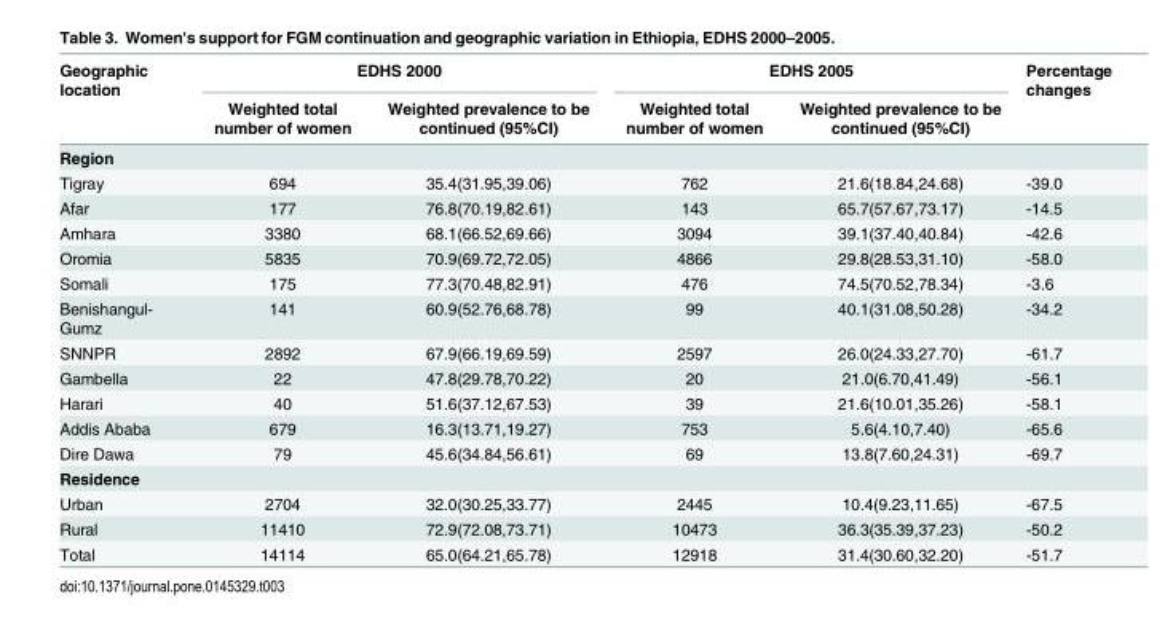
<table><thead><tr><td rowspan="2">Geographic location</td><td colspan="2">EDHS 2000</td><td colspan="2">EDHS 2005</td><td rowspan="2">Percentage changes</td></tr><tr><td>Weighted total number of women</td><td>Weighted prevalence to be continued (95%CI)</td><td>Weighted total number of women</td><td>Weighted prevalence to be continued (95%CI)</td></tr></thead><tbody><tr><td colspan="6">Region</td></tr><tr><td>Tigray</td><td>694</td><td>35.4(31.95,39.06)</td><td>762</td><td>21.6(18.84,24.68)</td><td>-39.0</td></tr><tr><td>Afar</td><td>177</td><td>76.8(70.19,82.61)</td><td>143</td><td>65.7(57.67,73.17)</td><td>-14.5</td></tr><tr><td>Amhara</td><td>3380</td><td>68.1(66.52,69.66)</td><td>3094</td><td>39.1(37.40,40.84)</td><td>-42.6</td></tr><tr><td>Oromia</td><td>5835</td><td>70.9(69.72,72.05)</td><td>4866</td><td>29.8(28.53,31.10)</td><td>-58.0</td></tr><tr><td>Somali</td><td>175</td><td>77.3(70.48,82.91)</td><td>476</td><td>74.5(70.52,78.34)</td><td>-3.6</td></tr><tr><td>Benishangul- Gumz</td><td>141</td><td>60.9(52.76,68.78)</td><td>99</td><td>40.1(31.08,50.28)</td><td>-34.2</td></tr><tr><td>SNNPR</td><td>2892</td><td>67.9(66.19,69.59)</td><td>2597</td><td>26.0(24.33,27.70)</td><td>-61.7</td></tr><tr><td>Gambella</td><td>22</td><td>47.8(29.78,70.22)</td><td>20</td><td>21.0(6.70,41.49)</td><td>-56.1</td></tr><tr><td>Harari</td><td>40</td><td>51.6(37.12,67.53)</td><td>39</td><td>21.6(10.01,35.26)</td><td>-58.1</td></tr><tr><td>Addis Ababa</td><td>679</td><td>16.3(13.71,19.27)</td><td>753</td><td>5.6(4.10,7.40)</td><td>-65.6</td></tr><tr><td>Dire Dawa</td><td>79</td><td>45.6(34.84,56.61)</td><td>69</td><td>13.8(7.60,24.31)</td><td>-69.7</td></tr><tr><td colspan="6">Residence</td></tr><tr><td>Urban</td><td>2704</td><td>32.0(30.25,33.77)</td><td>2445</td><td>10.4(9.23,11.65)</td><td>-67.5</td></tr><tr><td>Rural</td><td>11410</td><td>72.9(72.08,73.71)</td><td>10473</td><td>36.3(35.39,37.23)</td><td>-50.2</td></tr><tr><td>Total</td><td>14114</td><td>65.0(64.21,65.78)</td><td>12918</td><td>31.4(30.60,32.20)</td><td>-51.7</td></tr></tbody></table>